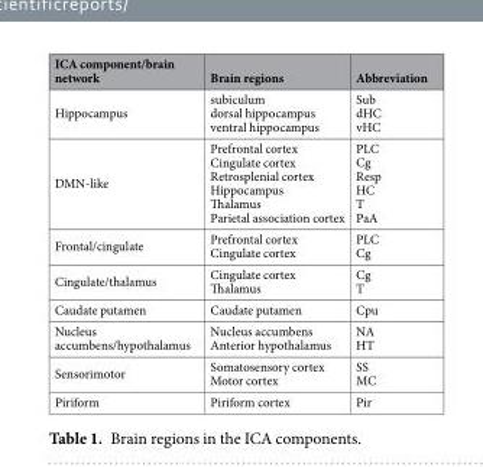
<table><thead><tr><td>ICA component/brain network</td><td>Brain regions</td><td>Abbreviation</td></tr></thead><tbody><tr><td>Hippocampus</td><td>subiculum dorsal hippocampus ventral hippocampus</td><td>Sub dHC vHC</td></tr><tr><td>DMN-like</td><td>Prefrontal cortex Cingulate cortex Retrosplenial cortex Hippocampus Thalamus Parietal association cortex</td><td>PLC Cg Resp HC T PaA</td></tr><tr><td>Frontal/cingulate</td><td>Prefrontal cortex Cingulate cortex</td><td>PLC Cg</td></tr><tr><td>Cingulate/thalamus</td><td>Cingulate cortex Thalamus</td><td>Cg T</td></tr><tr><td>Caudate putamen</td><td>Caudate putamen</td><td>Cpu</td></tr><tr><td>Nucleus accumbens/hypothalamus</td><td>Nucleus accumbens Anterior hypothalamus</td><td>NA HT</td></tr><tr><td>Sensorimotor</td><td>Somatosensory cortex Motor cortex</td><td>SS MC</td></tr><tr><td>Piriform</td><td>Piriform cortex</td><td>Pir</td></tr></tbody></table>